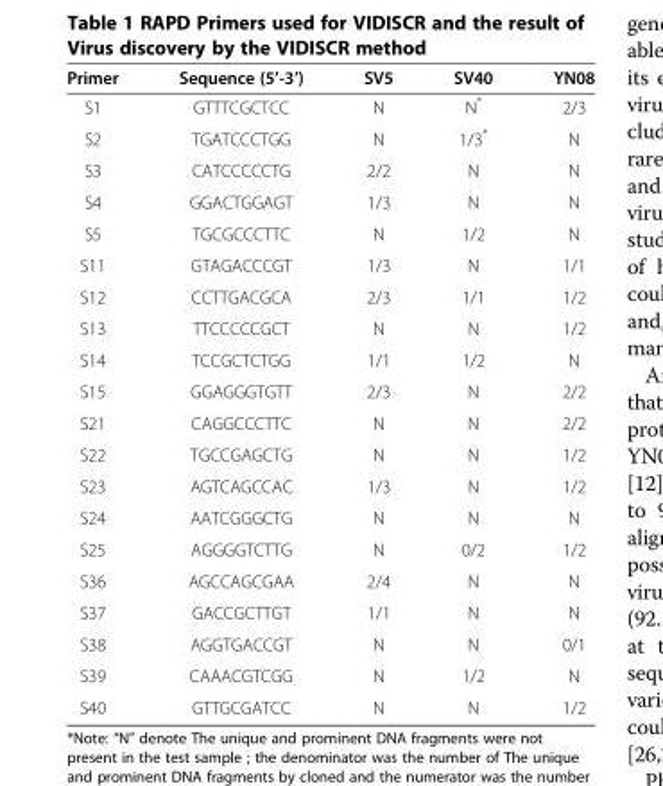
<table><thead><tr><td>Primer</td><td>Sequence (5’-3’)</td><td>SV5</td><td>SV40</td><td>YN08</td></tr></thead><tbody><tr><td>S1</td><td>GTTTCGCTCC</td><td>N</td><td>N*</td><td>2/3</td></tr><tr><td>S2</td><td>TGATCCCTGG</td><td>N</td><td>1/3*</td><td>N</td></tr><tr><td>S3</td><td>CATCCCCCTG</td><td>2/2</td><td>N</td><td>N</td></tr><tr><td>S4</td><td>GGACTGGAGT</td><td>1/3</td><td>N</td><td>N</td></tr><tr><td>S5</td><td>TGCGCCCTTC</td><td>N</td><td>1/2</td><td>N</td></tr><tr><td>S11</td><td>GTAGACCCGT</td><td>1/3</td><td>N</td><td>1/1</td></tr><tr><td>S12</td><td>CCTTGACGCA</td><td>2/3</td><td>1/1</td><td>1/2</td></tr><tr><td>S13</td><td>TTCCCCCGCT</td><td>N</td><td>N</td><td>1/2</td></tr><tr><td>S14</td><td>TCCGCTCTGG</td><td>1/1</td><td>1/2</td><td>N</td></tr><tr><td>S15</td><td>GGAGGGTGTT</td><td>2/3</td><td>N</td><td>2/2</td></tr><tr><td>S21</td><td>CAGGCCCTTC</td><td>N</td><td>N</td><td>2/2</td></tr><tr><td>S22</td><td>TGCCGAGCTG</td><td>N</td><td>N</td><td>1/2</td></tr><tr><td>S23</td><td>AGTCAGCCAC</td><td>1/3</td><td>N</td><td>1/2</td></tr><tr><td>S24</td><td>AATCGGGCTG</td><td>N</td><td>N</td><td>N</td></tr><tr><td>S25</td><td>AGGGGTCTTG</td><td>N</td><td>0/2</td><td>1/2</td></tr><tr><td>S36</td><td>AGCCAGCGAA</td><td>2/4</td><td>N</td><td>N</td></tr><tr><td>S37</td><td>GACCGCTTGT</td><td>1/1</td><td>N</td><td>N</td></tr><tr><td>S38</td><td>AGGTGACCGT</td><td>N</td><td>N</td><td>0/1</td></tr><tr><td>S39</td><td>CAAACGTCGG</td><td>N</td><td>1/2</td><td>N</td></tr><tr><td>S40</td><td>GTTGCGATCC</td><td>N</td><td>N</td><td>1/2</td></tr></tbody></table>